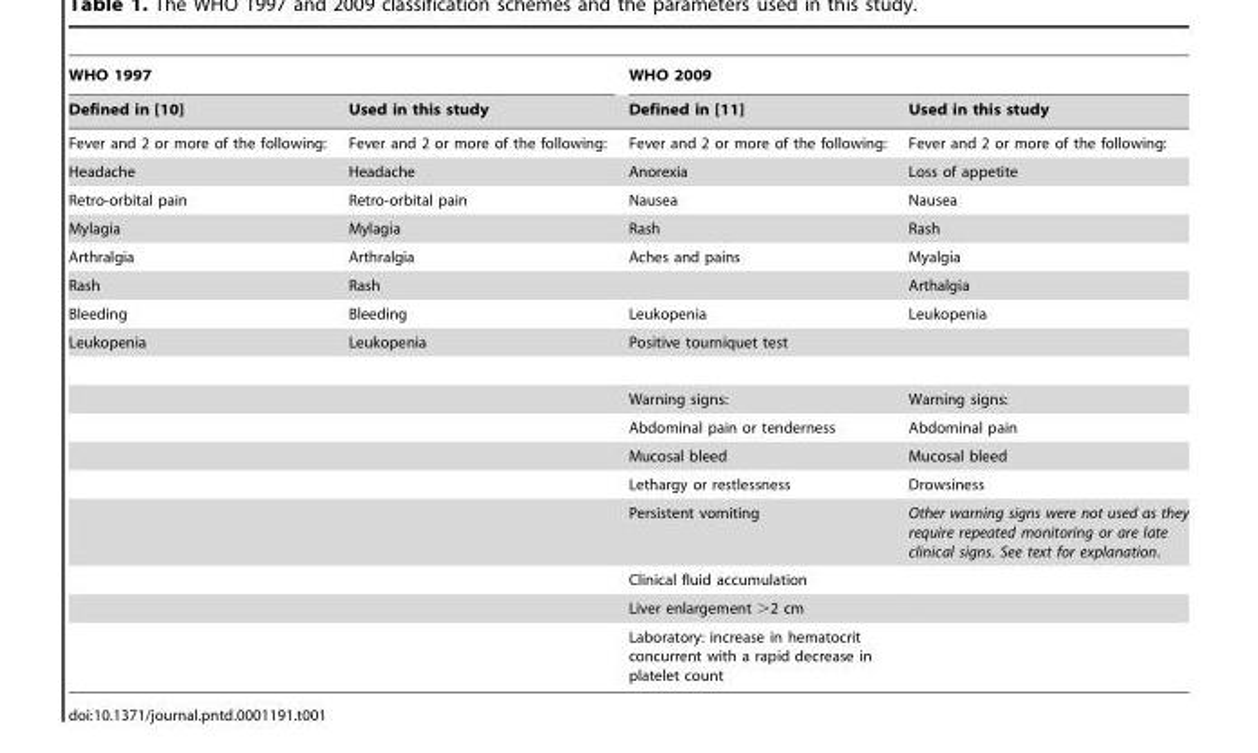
<table><thead><tr><td colspan="2">WHO 1997</td><td colspan="2">WHO 2009</td></tr><tr><td>Defined in [10]</td><td>Used in this study</td><td>Defined in [11]</td><td>Used in this study</td></tr></thead><tbody><tr><td>Fever and 2 or more of the following:</td><td>Fever and 2 or more of the following:</td><td>Fever and 2 or more of the following:</td><td>Fever and 2 or more of the following:</td></tr><tr><td>Headache</td><td>Headache</td><td>Anorexia</td><td>Loss of appetite</td></tr><tr><td>Retro-orbital pain</td><td>Retro-orbital pain</td><td>Nausea</td><td>Nausea</td></tr><tr><td>Mylagia</td><td>Mylagia</td><td>Rash</td><td>Rash</td></tr><tr><td>Arthralgia</td><td>Arthralgia</td><td>Aches and pains</td><td>Myalgia</td></tr><tr><td>Rash</td><td>Rash</td><td></td><td>Arthalgia</td></tr><tr><td>Bleeding</td><td>Bleeding</td><td>Leukopenia</td><td>Leukopenia</td></tr><tr><td rowspan="9">Leukopenia</td><td>Leukopenia</td><td>Positive tourniquet test</td><td></td></tr><tr><td></td><td>Warning signs:</td><td>Warning signs:</td></tr><tr><td></td><td>Abdominal pain or tenderness</td><td>Abdominal pain</td></tr><tr><td></td><td>Mucosal bleed</td><td>Mucosal bleed</td></tr><tr><td></td><td>Lethargy or restlessness</td><td>Drowsiness</td></tr><tr><td></td><td>Persistent vomiting</td><td>Other warning signs were not used as they require repeated monitoring or are late clinical signs. See text for explanation.</td></tr><tr><td></td><td>Clinical fluid accumulation</td><td></td></tr><tr><td></td><td>Liver enlargement &gt;2 cm</td><td></td></tr><tr><td></td><td>Laboratory: increase in hematocrit concurrent with a rapid decrease in platelet count</td><td></td></tr></tbody></table>